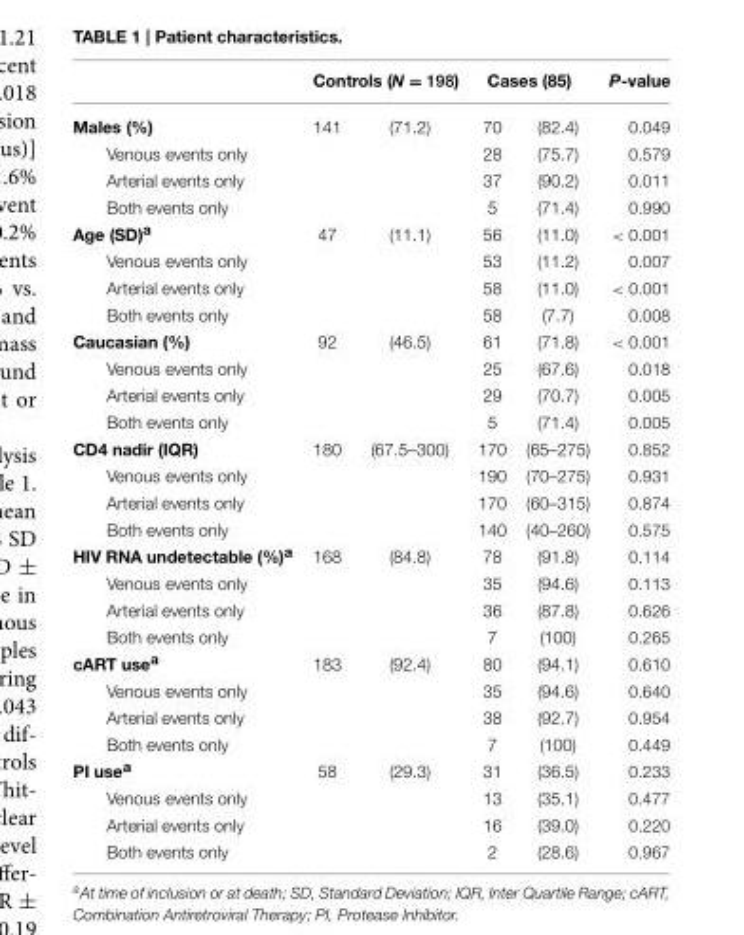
<table><thead><tr><td rowspan="2">Males (%)</td><td colspan="2">Controls (N = 198)</td><td colspan="2">Cases (85)</td><td rowspan="2">P-value 0.049</td></tr><tr><td>141</td><td>(71.2)</td><td>70</td><td>(82.4)</td></tr></thead><tbody><tr><td>Venous events only</td><td></td><td></td><td>28</td><td>(75.7)</td><td>0.579</td></tr><tr><td>Arterial events only</td><td></td><td></td><td>37</td><td>(90.2)</td><td>0.011</td></tr><tr><td>Both events only</td><td></td><td></td><td>5</td><td>(71.4)</td><td>0.990</td></tr><tr><td>Age (SD)<sup>a</sup></td><td>47</td><td>(11.1)</td><td>56</td><td>(11.0)</td><td>&lt; 0.001</td></tr><tr><td>Venous events only</td><td></td><td></td><td>53</td><td>(11.2)</td><td>0.007</td></tr><tr><td>Arterial events only</td><td></td><td></td><td>58</td><td>(11.0)</td><td>&lt; 0.001</td></tr><tr><td>Both events only</td><td></td><td></td><td>58</td><td>(7.7)</td><td>0.008</td></tr><tr><td>Caucasian (%)</td><td>92</td><td>(46.5)</td><td>61</td><td>(71.8)</td><td>&lt; 0.001</td></tr><tr><td>Venous events only</td><td></td><td></td><td>25</td><td>(67.6)</td><td>0.018</td></tr><tr><td>Arterial events only</td><td></td><td></td><td>29</td><td>(70.7)</td><td>0.005</td></tr><tr><td>Both events only</td><td></td><td></td><td>5</td><td>(71.4)</td><td>0.005</td></tr><tr><td>CD4 nadir (IQR)</td><td>180</td><td>(67.5–300)</td><td>170</td><td>(65–275)</td><td>0.852</td></tr><tr><td>Venous events only</td><td></td><td></td><td>190</td><td>(70–275)</td><td>0.931</td></tr><tr><td>Arterial events only</td><td></td><td></td><td>170</td><td>(60–315)</td><td>0.874</td></tr><tr><td>Both events only</td><td></td><td></td><td>140</td><td>(40–260)</td><td>0.575</td></tr><tr><td>HIV RNA undetectable (%)<sup>a</sup></td><td>168</td><td>(84.8)</td><td>78</td><td>(91.8)</td><td>0.114</td></tr><tr><td>Venous events only</td><td></td><td></td><td>35</td><td>(94.6)</td><td>0.113</td></tr><tr><td>Arterial events only</td><td></td><td></td><td>36</td><td>(87.8)</td><td>0.626</td></tr><tr><td>Both events only</td><td></td><td></td><td>7</td><td>(100)</td><td>0.265</td></tr><tr><td>cART use<sup>a</sup></td><td>183</td><td>(92.4)</td><td>80</td><td>(94.1)</td><td>0.610</td></tr><tr><td>Venous events only</td><td></td><td></td><td>35</td><td>(94.6)</td><td>0.640</td></tr><tr><td>Arterial events only</td><td></td><td></td><td>38</td><td>(92.7)</td><td>0.954</td></tr><tr><td>Both events only</td><td></td><td></td><td>7</td><td>(100)</td><td>0.449</td></tr><tr><td>PI use<sup>a</sup></td><td>58</td><td>(29.3)</td><td>31</td><td>(36.5)</td><td>0.233</td></tr><tr><td>Venous events only</td><td></td><td></td><td>13</td><td>(35.1)</td><td>0.477</td></tr><tr><td>Arterial events only</td><td></td><td></td><td>16</td><td>(39.0)</td><td>0.220</td></tr><tr><td>Both events only</td><td></td><td></td><td>2</td><td>(28.6)</td><td>0.967</td></tr></tbody></table>